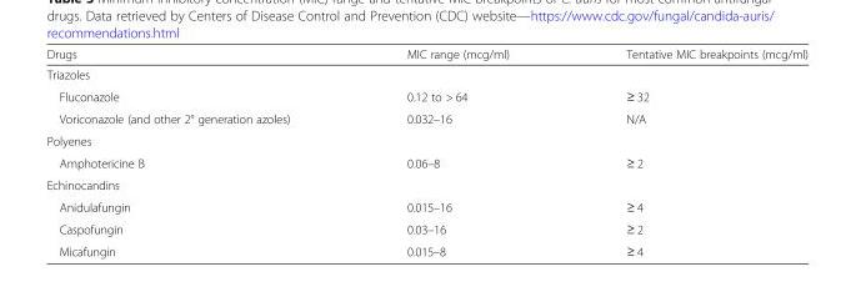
<table><thead><tr><td>Drugs</td><td>MIC range (mcg/ml)</td><td>Tentative MIC breakpoints (mcg/ml)</td></tr></thead><tbody><tr><td colspan="3">Triazoles</td></tr><tr><td>Fluconazole</td><td>0.12 to &gt; 64</td><td>≥ 32</td></tr><tr><td>Voriconazole (and other 2° generation azoles)</td><td>0.032–16</td><td>N/A</td></tr><tr><td colspan="3">Polyenes</td></tr><tr><td>Amphotericine B</td><td>0.06–8</td><td>≥ 2</td></tr><tr><td colspan="3">Echinocandins</td></tr><tr><td>Anidulafungin</td><td>0.015–16</td><td>≥ 4</td></tr><tr><td>Caspofungin</td><td>0.03–16</td><td>≥ 2</td></tr><tr><td>Micafungin</td><td>0.015–8</td><td>≥ 4</td></tr></tbody></table>